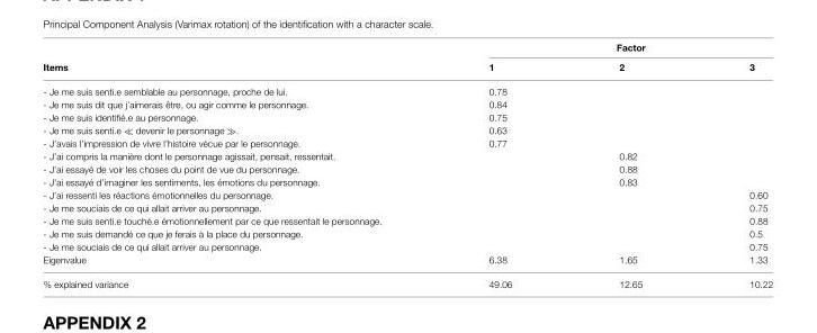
<table><thead><tr><td rowspan="2">Items</td><td colspan="3">Factor</td></tr><tr><td>1</td><td>2</td><td>3</td></tr></thead><tbody><tr><td>- Je me suis senti.e semblable au personnage, proche de lui.</td><td>0.78</td><td></td><td></td></tr><tr><td>- Je me suis dit que j’aimerais être, ou agir comme le personnage.</td><td>0.84</td><td></td><td></td></tr><tr><td>- Je me suis identifié.e au personnage.</td><td>0.75</td><td></td><td></td></tr><tr><td>- Je me suis senti.e ≪ devenir le personnage ≫.</td><td>0.63</td><td></td><td></td></tr><tr><td>- J’avais l’impression de vivre l’histoire vécue par le personnage.</td><td>0.77</td><td></td><td></td></tr><tr><td>- J’ai compris la manière dont le personnage agissait, pensait, ressentait.</td><td></td><td>0.82</td><td></td></tr><tr><td>- J’ai essayé de voir les choses du point de vue du personnage.</td><td></td><td>0.88</td><td></td></tr><tr><td>- J’ai essayé d’imaginer les sentiments, les émotions du personnage.</td><td></td><td>0.83</td><td></td></tr><tr><td>- J’ai ressenti les réactions émotionnelles du personnage.</td><td></td><td></td><td>0.60</td></tr><tr><td>- Je me souciais de ce qui allait arriver au personnage.</td><td></td><td></td><td>0.75</td></tr><tr><td>- Je me suis senti.e touché.e émotionnellement par ce que ressentait le personnage.</td><td></td><td></td><td>0.88</td></tr><tr><td>- Je me suis demandé ce que je ferais à la place du personnage.</td><td></td><td></td><td>0.5</td></tr><tr><td>- Je me souciais de ce qui allait arriver au personnage.</td><td></td><td></td><td>0.75</td></tr><tr><td>Eigenvalue</td><td>6.38</td><td>1.65</td><td>1.33</td></tr><tr><td>% explained variance</td><td>49.06</td><td>12.65</td><td>10.22</td></tr></tbody></table>